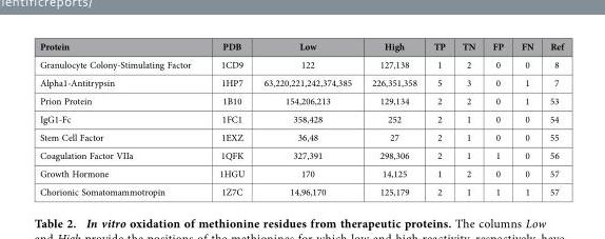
<table><thead><tr><td>Protein</td><td>PDB</td><td>Low</td><td>High</td><td>TP</td><td>TN</td><td>FP</td><td>FN</td><td>Ref</td></tr></thead><tbody><tr><td>Granulocyte Colony-Stimulating Factor</td><td>1CD9</td><td>122</td><td>127,138</td><td>1</td><td>2</td><td>0</td><td>0</td><td>8</td></tr><tr><td>Alpha1-Antitrypsin</td><td>1HP7</td><td>63,220,221,242,374,385</td><td>226,351,358</td><td>5</td><td>3</td><td>0</td><td>1</td><td>7</td></tr><tr><td>Prion Protein</td><td>1B10</td><td>154,206,213</td><td>129,134</td><td>2</td><td>2</td><td>0</td><td>1</td><td>53</td></tr><tr><td>IgG1-Fc</td><td>1FC1</td><td>358,428</td><td>252</td><td>2</td><td>1</td><td>0</td><td>0</td><td>54</td></tr><tr><td>Stem Cell Factor</td><td>1EXZ</td><td>36,48</td><td>27</td><td>2</td><td>1</td><td>0</td><td>0</td><td>55</td></tr><tr><td>Coagulation Factor VIIa</td><td>1QFK</td><td>327,391</td><td>298,306</td><td>2</td><td>1</td><td>1</td><td>0</td><td>56</td></tr><tr><td>Growth Hormone</td><td>1HGU</td><td>170</td><td>14,125</td><td>1</td><td>2</td><td>0</td><td>0</td><td>57</td></tr><tr><td>Chorionic Somatomammotropin</td><td>1Z7C</td><td>14,96,170</td><td>125,179</td><td>2</td><td>1</td><td>1</td><td>1</td><td>57</td></tr></tbody></table>